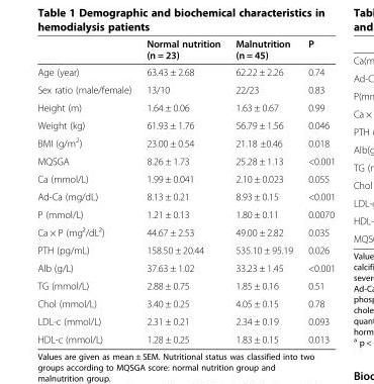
<table><thead><tr><td></td><td>Normal nutrition (n = 23)</td><td>Malnutrition (n = 45)</td><td>P</td></tr></thead><tbody><tr><td>Age (year)</td><td>63.43 ± 2.68</td><td>62.22 ± 2.26</td><td>0.74</td></tr><tr><td>Sex ratio (male/female)</td><td>13/10</td><td>22/23</td><td>0.83</td></tr><tr><td>Height (m)</td><td>1.64 ± 0.06</td><td>1.63 ± 0.67</td><td>0.99</td></tr><tr><td>Weight (kg)</td><td>61.93 ± 1.76</td><td>56.79 ± 1.56</td><td>0.046</td></tr><tr><td>BMI (g/m<sup>2</sup>)</td><td>23.00 ± 0.54</td><td>21.18 ±0.46</td><td>0.018</td></tr><tr><td>MQSGA</td><td>8.26 ± 1.73</td><td>25.28 ± 1.13</td><td>&lt;0.001</td></tr><tr><td>Ca (mmol/L)</td><td>1.99 ± 0.041</td><td>2.10 ± 0.023</td><td>0.055</td></tr><tr><td>Ad-Ca (mg/dL)</td><td>8.13 ± 0.21</td><td>8.93 ± 0.15</td><td>&lt;0.001</td></tr><tr><td>P (mmol/L)</td><td>1.21 ± 0.13</td><td>1.80 ± 0.11</td><td>0.0070</td></tr><tr><td>Ca × P (mg²/dL²)</td><td>44.67 ± 2.53</td><td>49.00 ± 2.82</td><td>0.035</td></tr><tr><td>PTH (pg/mL)</td><td>158.50 ± 20.44</td><td>535.10 ± 95.19</td><td>0.026</td></tr><tr><td>Alb (g/L)</td><td>37.63 ± 1.02</td><td>33.23 ± 1.45</td><td>&lt;0.001</td></tr><tr><td>TG (mmol/L)</td><td>2.88 ± 0.75</td><td>1.85 ± 0.16</td><td>0.51</td></tr><tr><td>Chol (mmol/L)</td><td>3.40 ± 0.25</td><td>4.05 ± 0.15</td><td>0.78</td></tr><tr><td>LDL-c (mmol/L)</td><td>2.31 ± 0.21</td><td>2.34 ± 0.19</td><td>0.093</td></tr><tr><td>HDL-c (mmol/L)</td><td>1.28 ± 0.25</td><td>1.83 ± 0.15</td><td>0.013</td></tr></tbody></table>